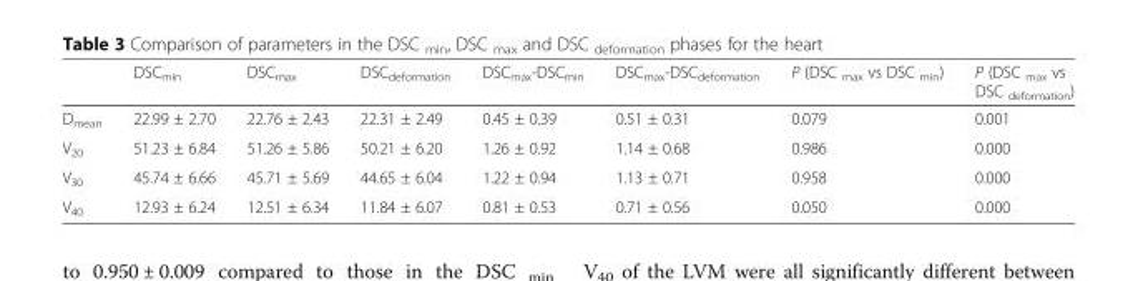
<table><thead><tr><td></td><td>DSC<sub>min</sub></td><td>DSC<sub>max</sub></td><td>DSC<sub>deformation</sub></td><td>DSC<sub>max</sub>-DSC<sub>min</sub></td><td>DSC<sub>max</sub>-DSC<sub>deformation</sub></td><td>P (DSC <sub>max</sub> vs DSC <sub>min</sub>)</td><td>P (DSC <sub>max</sub> vs DSC <sub>deformation</sub>)</td></tr></thead><tbody><tr><td>D<sub>mean</sub></td><td>22.99 ± 2.70</td><td>22.76 ± 2.43</td><td>22.31 ± 2.49</td><td>0.45 ± 0.39</td><td>0.51 ± 0.31</td><td>0.079</td><td>0.001</td></tr><tr><td>V<sub>20</sub></td><td>51.23 ± 6.84</td><td>51.26 ± 5.86</td><td>50.21 ± 6.20</td><td>1.26 ± 0.92</td><td>1.14 ± 0.68</td><td>0.986</td><td>0.000</td></tr><tr><td>V<sub>30</sub></td><td>45.74 ± 6.66</td><td>45.71 ± 5.69</td><td>44.65 ± 6.04</td><td>1.22 ± 0.94</td><td>1.13 ± 0.71</td><td>0.958</td><td>0.000</td></tr><tr><td>V<sub>40</sub></td><td>12.93 ± 6.24</td><td>12.51 ± 6.34</td><td>11.84 ± 6.07</td><td>0.81 ± 0.53</td><td>0.71 ± 0.56</td><td>0.050</td><td>0.000</td></tr></tbody></table>